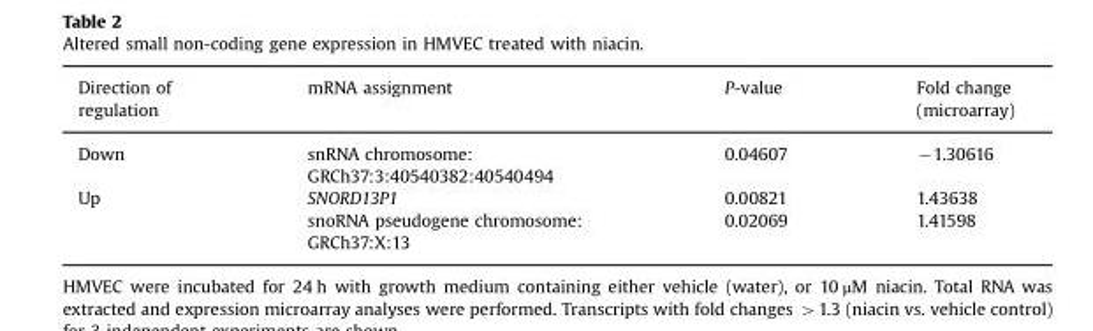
<table><thead><tr><td>Direction of regulation</td><td>mRNA assignment</td><td>P-value</td><td>Fold change (microarray)</td></tr></thead><tbody><tr><td>Down</td><td>snRNA chromosome: GRCh37:3:40540382:40540494</td><td>0.04607</td><td>−1.30616</td></tr><tr><td rowspan="2">Up</td><td>SNORD13P1</td><td>0.00821</td><td>1.43638</td></tr><tr><td>snoRNA pseudogene chromosome: GRCh37:X:13</td><td>0.02069</td><td>1.41598</td></tr></tbody></table>